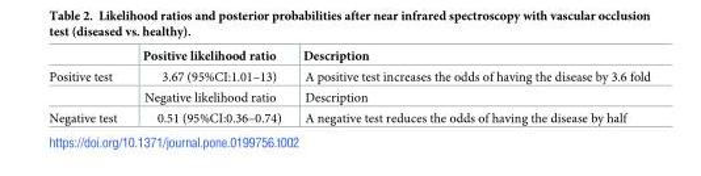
<table><thead><tr><td></td><td>Positive likelihood ratio</td><td>Description</td></tr></thead><tbody><tr><td rowspan="2">Positive test</td><td>3.67 (95%CI:1.01–13)</td><td>A positive test increases the odds of having the disease by 3.6 fold</td></tr><tr><td>Negative likelihood ratio</td><td>Description</td></tr><tr><td>Negative test</td><td>0.51 (95%CI:0.36–0.74)</td><td>A negative test reduces the odds of having the disease by half</td></tr></tbody></table>